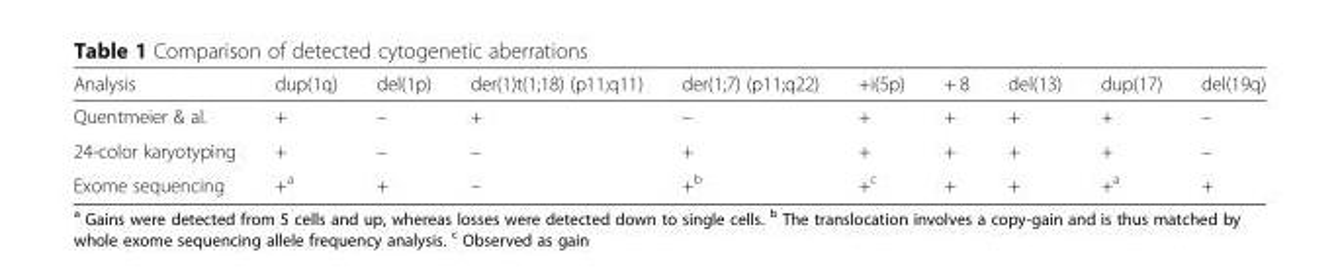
<table><thead><tr><td>Analysis</td><td>dup(1q)</td><td>del(1p)</td><td>der(1)t(1;18) (p11;q11)</td><td>der(1;7) (p11;q22)</td><td>+i(5p)</td><td>+ 8</td><td>del(13)</td><td>dup(17)</td><td>del(19q)</td></tr></thead><tbody><tr><td>Quentmeier &amp; al.</td><td>+</td><td>–</td><td>+</td><td>–</td><td>+</td><td>+</td><td>+</td><td>+</td><td>–</td></tr><tr><td>24-color karyotyping</td><td>+</td><td>–</td><td>–</td><td>+</td><td>+</td><td>+</td><td>+</td><td>+</td><td>–</td></tr><tr><td>Exome sequencing</td><td>+<sup>a</sup></td><td>+</td><td>–</td><td>+<sup>b</sup></td><td>+<sup>c</sup></td><td>+</td><td>+</td><td>+<sup>a</sup></td><td>+</td></tr></tbody></table>